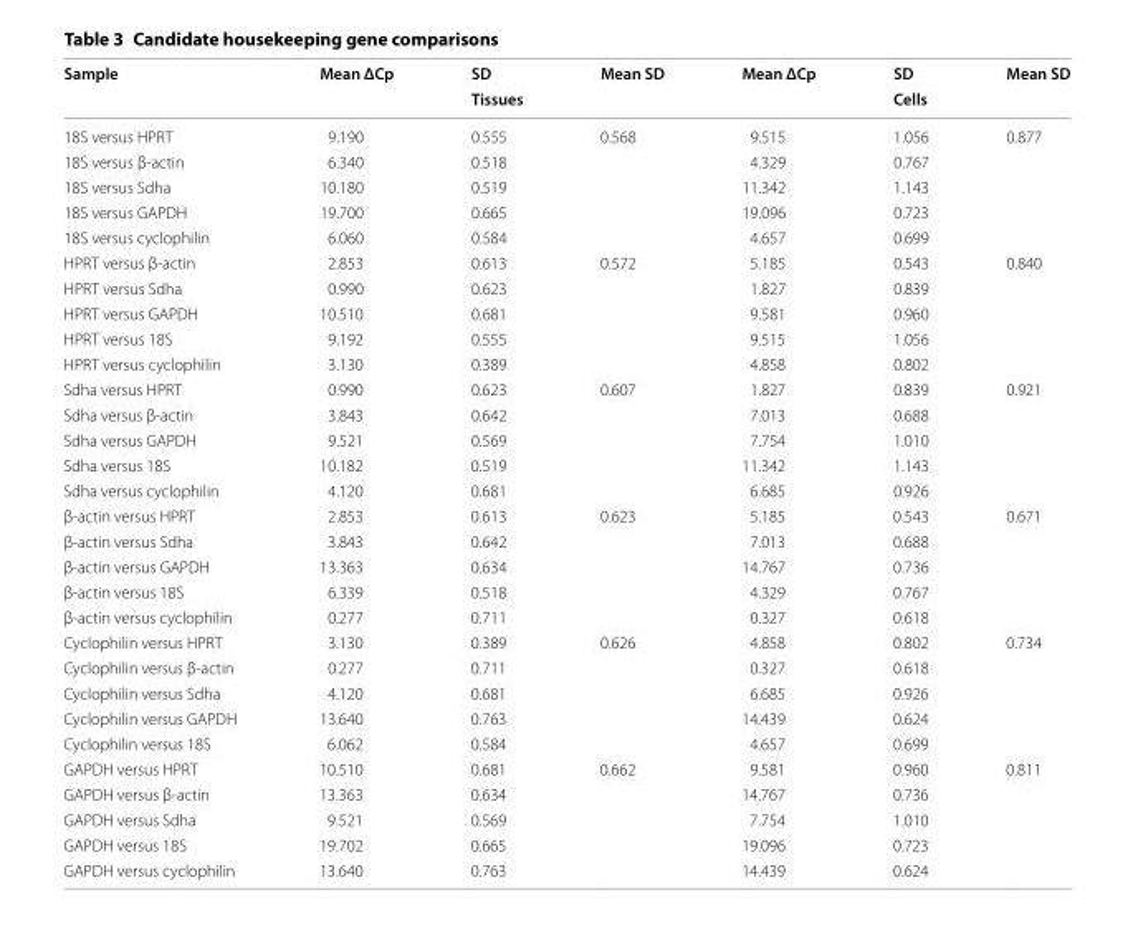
<table><thead><tr><td rowspan="2">Sample</td><td rowspan="2">Mean ΔCp</td><td rowspan="2">SD Tissues</td><td rowspan="2">Mean SD</td><td rowspan="2">Mean ΔCp</td><td rowspan="2">SD Cells</td><td rowspan="2">Mean SD</td></tr><tr></tr></thead><tbody><tr><td>18S versus HPRT</td><td>9.190</td><td>0.555</td><td>0.568</td><td>9.515</td><td>1.056</td><td>0.877</td></tr><tr><td>18S versus β-actin</td><td>6.340</td><td>0.518</td><td></td><td>4.329</td><td>0.767</td><td></td></tr><tr><td>18S versus Sdha</td><td>10.180</td><td>0.519</td><td></td><td>11.342</td><td>1.143</td><td></td></tr><tr><td>18S versus GAPDH</td><td>19.700</td><td>0.665</td><td></td><td>19.096</td><td>0.723</td><td></td></tr><tr><td>18S versus cyclophilin</td><td>6.060</td><td>0.584</td><td></td><td>4.657</td><td>0.699</td><td></td></tr><tr><td>HPRT versus β-actin</td><td>2.853</td><td>0.613</td><td>0.572</td><td>5.185</td><td>0.543</td><td>0.840</td></tr><tr><td>HPRT versus Sdha</td><td>0.990</td><td>0.623</td><td></td><td>1.827</td><td>0.839</td><td></td></tr><tr><td>HPRT versus GAPDH</td><td>10.510</td><td>0.681</td><td></td><td>9.581</td><td>0.960</td><td></td></tr><tr><td>HPRT versus 18S</td><td>9.192</td><td>0.555</td><td></td><td>9.515</td><td>1.056</td><td></td></tr><tr><td>HPRT versus cyclophilin</td><td>3.130</td><td>0.389</td><td></td><td>4.858</td><td>0.802</td><td></td></tr><tr><td>Sdha versus HPRT</td><td>0.990</td><td>0.623</td><td>0.607</td><td>1.827</td><td>0.839</td><td>0.921</td></tr><tr><td>Sdha versus β-actin</td><td>3.843</td><td>0.642</td><td></td><td>7.013</td><td>0.688</td><td></td></tr><tr><td>Sdha versus GAPDH</td><td>9.521</td><td>0.569</td><td></td><td>7.754</td><td>1.010</td><td></td></tr><tr><td>Sdha versus 18S</td><td>10.182</td><td>0.519</td><td></td><td>11.342</td><td>1.143</td><td></td></tr><tr><td>Sdha versus cyclophilin</td><td>4.120</td><td>0.681</td><td></td><td>6.685</td><td>0.926</td><td></td></tr><tr><td>β-actin versus HPRT</td><td>2.853</td><td>0.613</td><td>0.623</td><td>5.185</td><td>0.543</td><td>0.671</td></tr><tr><td>β-actin versus Sdha</td><td>3.843</td><td>0.642</td><td></td><td>7.013</td><td>0.688</td><td></td></tr><tr><td>β-actin versus GAPDH</td><td>13.363</td><td>0.634</td><td></td><td>14.767</td><td>0.736</td><td></td></tr><tr><td>β-actin versus 18S</td><td>6.339</td><td>0.518</td><td></td><td>4.329</td><td>0.767</td><td></td></tr><tr><td>β-actin versus cyclophilin</td><td>0.277</td><td>0.711</td><td></td><td>0.327</td><td>0.618</td><td></td></tr><tr><td>Cyclophilin versus HPRT</td><td>3.130</td><td>0.389</td><td>0.626</td><td>4.858</td><td>0.802</td><td>0.734</td></tr><tr><td>Cyclophilin versus β-actin</td><td>0.277</td><td>0.711</td><td></td><td>0.327</td><td>0.618</td><td></td></tr><tr><td>Cyclophilin versus Sdha</td><td>4.120</td><td>0.681</td><td></td><td>6.685</td><td>0.926</td><td></td></tr><tr><td>Cyclophilin versus GAPDH</td><td>13.640</td><td>0.763</td><td></td><td>14.439</td><td>0.624</td><td></td></tr><tr><td>Cyclophilin versus 18S</td><td>6.062</td><td>0.584</td><td></td><td>4.657</td><td>0.699</td><td></td></tr><tr><td>GAPDH versus HPRT</td><td>10.510</td><td>0.681</td><td>0.662</td><td>9.581</td><td>0.960</td><td>0.811</td></tr><tr><td>GAPDH versus β-actin</td><td>13.363</td><td>0.634</td><td></td><td>14.767</td><td>0.736</td><td></td></tr><tr><td>GAPDH versus Sdha</td><td>9.521</td><td>0.569</td><td></td><td>7.754</td><td>1.010</td><td></td></tr><tr><td>GAPDH versus 18S</td><td>19.702</td><td>0.665</td><td></td><td>19.096</td><td>0.723</td><td></td></tr><tr><td>GAPDH versus cyclophilin</td><td>13.640</td><td>0.763</td><td></td><td>14.439</td><td>0.624</td><td></td></tr></tbody></table>